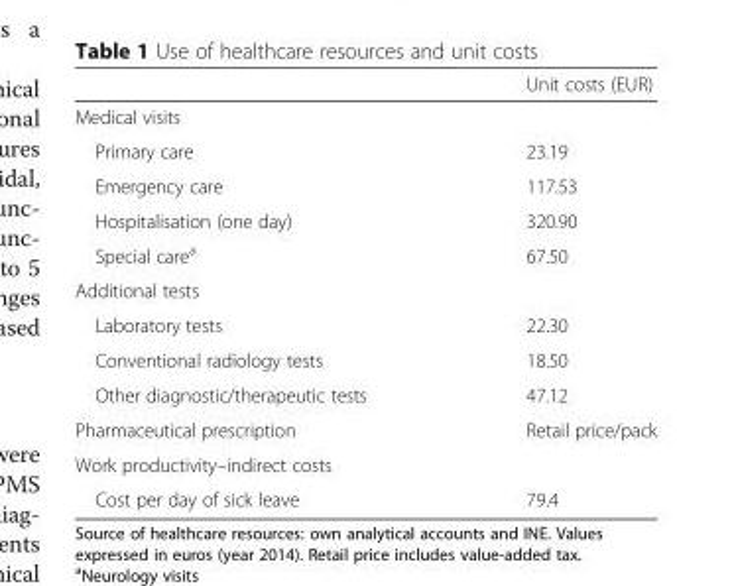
<table><thead><tr><td></td><td>Unit costs (EUR)</td></tr></thead><tbody><tr><td colspan="2">Medical visits</td></tr><tr><td>Primary care</td><td>23.19</td></tr><tr><td>Emergency care</td><td>117.53</td></tr><tr><td>Hospitalisation (one day)</td><td>320.90</td></tr><tr><td>Special care<sup>a</sup></td><td>67.50</td></tr><tr><td colspan="2">Additional tests</td></tr><tr><td>Laboratory tests</td><td>22.30</td></tr><tr><td>Conventional radiology tests</td><td>18.50</td></tr><tr><td>Other diagnostic/therapeutic tests</td><td>47.12</td></tr><tr><td>Pharmaceutical prescription</td><td>Retail price/pack</td></tr><tr><td colspan="2">Work productivity–indirect costs</td></tr><tr><td>Cost per day of sick leave</td><td>79.4</td></tr></tbody></table>